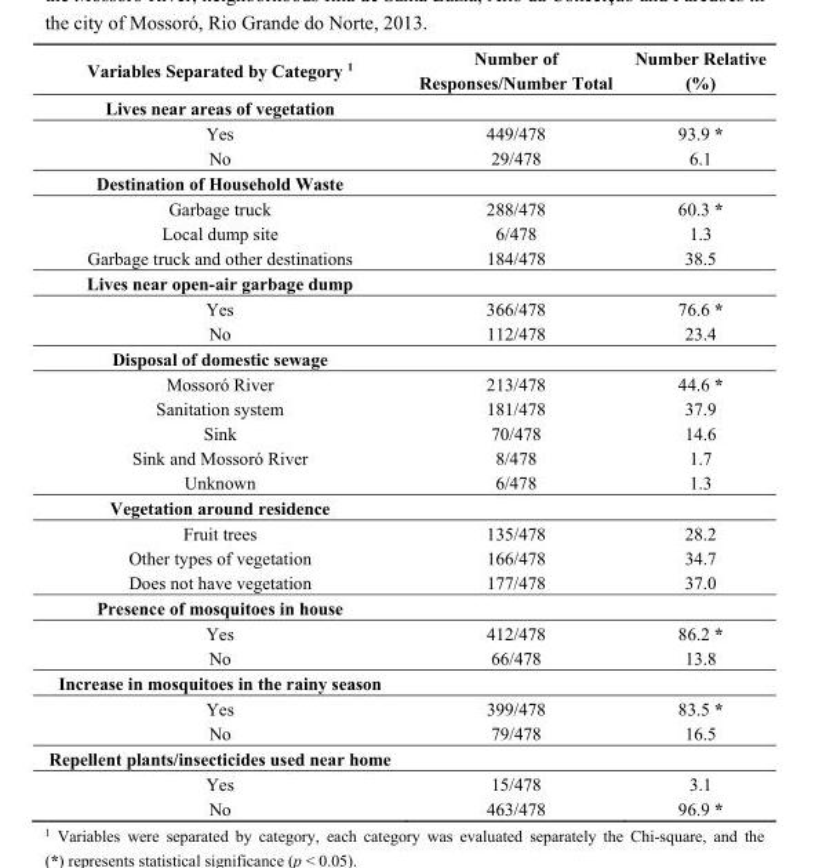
<table><thead><tr><td>Variables Separated by Category <sup>1</sup></td><td>Number of Responses/Number Total</td><td>Number Relative (%)</td></tr></thead><tbody><tr><td colspan="3">Lives near areas of vegetation</td></tr><tr><td>Yes</td><td>449/478</td><td>93.9 *</td></tr><tr><td>No</td><td>29/478</td><td>6.1</td></tr><tr><td colspan="3">Destination of Household Waste</td></tr><tr><td>Garbage truck</td><td>288/478</td><td>60.3 *</td></tr><tr><td>Local dump site</td><td>6/478</td><td>1.3</td></tr><tr><td>Garbage truck and other destinations</td><td>184/478</td><td>38.5</td></tr><tr><td colspan="3">Lives near open-air garbage dump</td></tr><tr><td>Yes</td><td>366/478</td><td>76.6 *</td></tr><tr><td>No</td><td>112/478</td><td>23.4</td></tr><tr><td colspan="3">Disposal of domestic sewage</td></tr><tr><td>Mossoró River</td><td>213/478</td><td>44.6 *</td></tr><tr><td>Sanitation system</td><td>181/478</td><td>37.9</td></tr><tr><td>Sink</td><td>70/478</td><td>14.6</td></tr><tr><td>Sink and Mossoró River</td><td>8/478</td><td>1.7</td></tr><tr><td>Unknown</td><td>6/478</td><td>1.3</td></tr><tr><td colspan="3">Vegetation around residence</td></tr><tr><td>Fruit trees</td><td>135/478</td><td>28.2</td></tr><tr><td>Other types of vegetation</td><td>166/478</td><td>34.7</td></tr><tr><td>Does not have vegetation</td><td>177/478</td><td>37.0</td></tr><tr><td colspan="3">Presence of mosquitoes in house</td></tr><tr><td>Yes</td><td>412/478</td><td>86.2 *</td></tr><tr><td>No</td><td>66/478</td><td>13.8</td></tr><tr><td colspan="3">Increase in mosquitoes in the rainy season</td></tr><tr><td>Yes</td><td>399/478</td><td>83.5 *</td></tr><tr><td>No</td><td>79/478</td><td>16.5</td></tr><tr><td colspan="3">Repellent plants/insecticides used near home</td></tr><tr><td>Yes</td><td>15/478</td><td>3.1</td></tr><tr><td>No</td><td>463/478</td><td>96.9 *</td></tr></tbody></table>